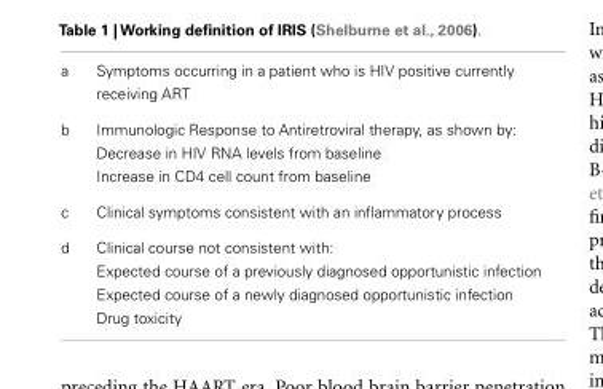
<table><tbody><tr><td>a</td><td>Symptoms occurring in a patient who is HIV positive currently receiving ART</td></tr><tr><td rowspan="3">b</td><td>Immunologic Response to Antiretroviral therapy, as shown by:</td></tr><tr><td>Decrease in HIV RNA levels from baseline</td></tr><tr><td>Increase in CD4 cell count from baseline</td></tr><tr><td>c</td><td>Clinical symptoms consistent with an inflammatory process</td></tr><tr><td rowspan="4">d</td><td>Clinical course not consistent with:</td></tr><tr><td>Expected course of a previously diagnosed opportunistic infection</td></tr><tr><td>Expected course of a newly diagnosed opportunistic infection</td></tr><tr><td>Drug toxicity</td></tr></tbody></table>